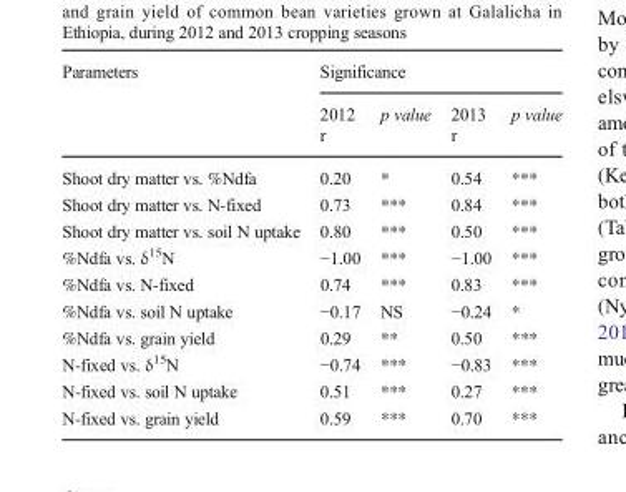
<table><thead><tr><td rowspan="3">Parameters</td><td colspan="4">Significance</td></tr><tr><td rowspan="2">2012 r</td><td rowspan="2">p value</td><td rowspan="2">2013 r</td><td rowspan="2">p value</td></tr><tr></tr></thead><tbody><tr><td>Shoot dry matter vs. %Ndfa</td><td>0.20</td><td>*</td><td>0.54</td><td>***</td></tr><tr><td>Shoot dry matter vs. N-fixed</td><td>0.73</td><td>***</td><td>0.84</td><td>***</td></tr><tr><td>Shoot dry matter vs. soil N uptake</td><td>0.80</td><td>***</td><td>0.50</td><td>***</td></tr><tr><td>%Ndfa vs. δ<sup>15</sup>N</td><td>−1.00</td><td>***</td><td>−1.00</td><td>***</td></tr><tr><td>%Ndfa vs. N-fixed</td><td>0.74</td><td>***</td><td>0.83</td><td>***</td></tr><tr><td>%Ndfa vs. soil N uptake</td><td>−0.17</td><td>NS</td><td>−0.24</td><td>*</td></tr><tr><td>%Ndfa vs. grain yield</td><td>0.29</td><td>**</td><td>0.50</td><td>***</td></tr><tr><td>N-fixed vs. δ<sup>15</sup>N</td><td>−0.74</td><td>***</td><td>−0.83</td><td>***</td></tr><tr><td>N-fixed vs. soil N uptake</td><td>0.51</td><td>***</td><td>0.27</td><td>***</td></tr><tr><td>N-fixed vs. grain yield</td><td>0.59</td><td>***</td><td>0.70</td><td>***</td></tr></tbody></table>